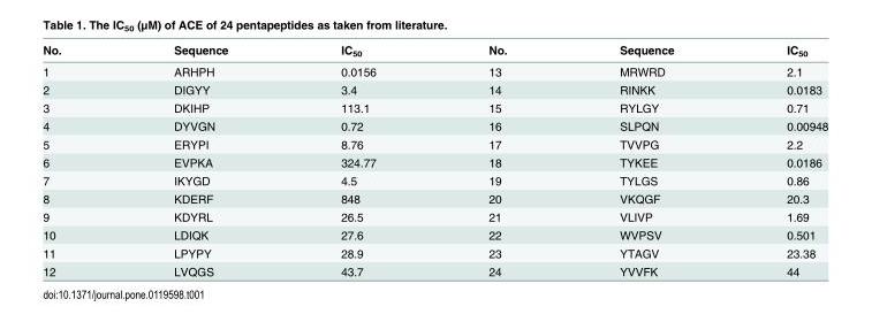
<table><thead><tr><td>No.</td><td>Sequence</td><td>IC<sub>50</sub></td><td>No.</td><td>Sequence</td><td>IC<sub>50</sub></td></tr></thead><tbody><tr><td>1</td><td>ARHPH</td><td>0.0156</td><td>13</td><td>MRWRD</td><td>2.1</td></tr><tr><td>2</td><td>DIGYY</td><td>3.4</td><td>14</td><td>RINKK</td><td>0.0183</td></tr><tr><td>3</td><td>DKIHP</td><td>113.1</td><td>15</td><td>RYLGY</td><td>0.71</td></tr><tr><td>4</td><td>DYVGN</td><td>0.72</td><td>16</td><td>SLPQN</td><td>0.00948</td></tr><tr><td>5</td><td>ERYPI</td><td>8.76</td><td>17</td><td>TVVPG</td><td>2.2</td></tr><tr><td>6</td><td>EVPKA</td><td>324.77</td><td>18</td><td>TYKEE</td><td>0.0186</td></tr><tr><td>7</td><td>IKYGD</td><td>4.5</td><td>19</td><td>TYLGS</td><td>0.86</td></tr><tr><td>8</td><td>KDERF</td><td>848</td><td>20</td><td>VKQGF</td><td>20.3</td></tr><tr><td>9</td><td>KDYRL</td><td>26.5</td><td>21</td><td>VLIVP</td><td>1.69</td></tr><tr><td>10</td><td>LDIQK</td><td>27.6</td><td>22</td><td>WVPSV</td><td>0.501</td></tr><tr><td>11</td><td>LPYPY</td><td>28.9</td><td>23</td><td>YTAGV</td><td>23.38</td></tr><tr><td>12</td><td>LVQGS</td><td>43.7</td><td>24</td><td>YVVFK</td><td>44</td></tr></tbody></table>